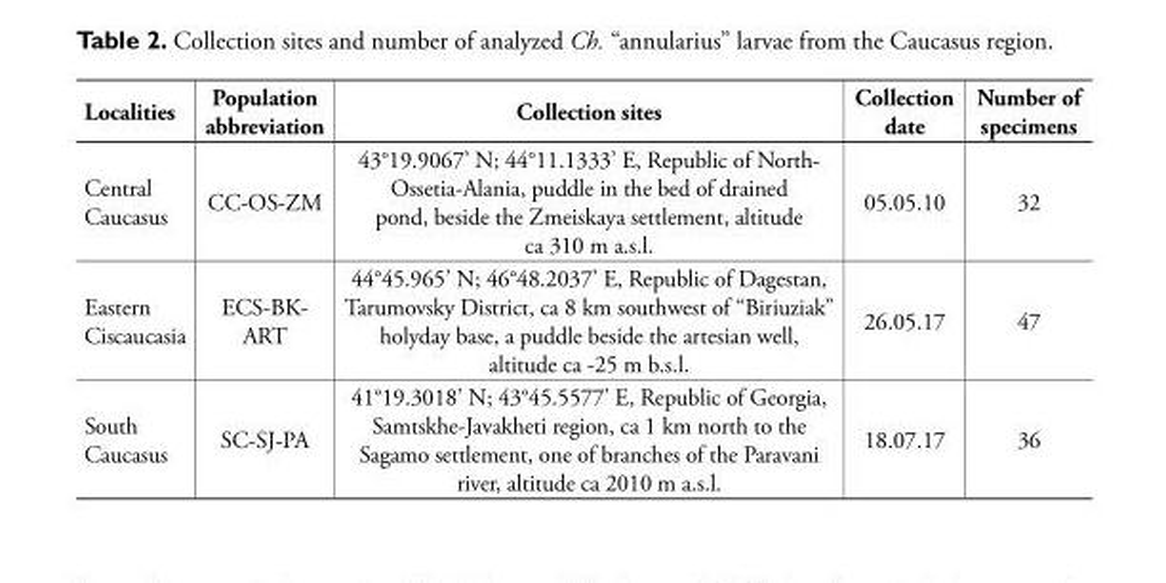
<table><thead><tr><td>Localities</td><td>Population abbreviation</td><td>Collection sites</td><td>Collection date</td><td>Number of specimens</td></tr></thead><tbody><tr><td>Central Caucasus</td><td>CC-OS-ZM</td><td>43°19.9067’ N; 44°11.1333’ E, Republic of North- Ossetia-Alania, puddle in the bed of drained pond, beside the Zmeiskaya settlement, altitude ca 310 m a.s.l.</td><td>05.05.10</td><td>32</td></tr><tr><td>Eastern Ciscaucasia</td><td>ECS-BK- ART</td><td>44°45.965’ N; 46°48.2037’ E, Republic of Dagestan, Tarumovsky District, ca 8 km southwest of “Biriuziak” holyday base, a puddle beside the artesian well, altitude ca -25 m b.s.l.</td><td>26.05.17</td><td>47</td></tr><tr><td>South Caucasus</td><td>SC-SJ-PA</td><td>41°19.3018’ N; 43°45.5577’ E, Republic of Georgia, Samtskhe-Javakheti region, ca 1 km north to the Sagamo settlement, one of branches of the Paravani river, altitude ca 2010 m a.s.l.</td><td>18.07.17</td><td>36</td></tr></tbody></table>